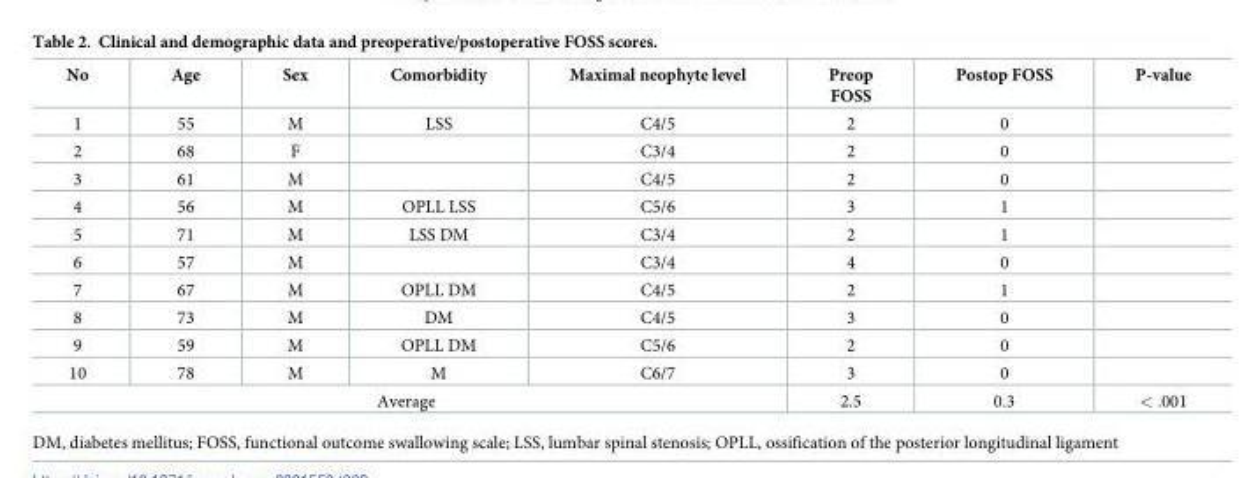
<table><thead><tr><td>No</td><td>Age</td><td>Sex</td><td>Comorbidity</td><td>Maximal neophyte level</td><td>Preop FOSS</td><td>Postop FOSS</td><td>P-value</td></tr></thead><tbody><tr><td>1</td><td>55</td><td>M</td><td>LSS</td><td>C4/5</td><td>2</td><td>0</td><td></td></tr><tr><td>2</td><td>68</td><td>F</td><td></td><td>C3/4</td><td>2</td><td>0</td><td></td></tr><tr><td>3</td><td>61</td><td>M</td><td></td><td>C4/5</td><td>2</td><td>0</td><td></td></tr><tr><td>4</td><td>56</td><td>M</td><td>OPLL LSS</td><td>C5/6</td><td>3</td><td>1</td><td></td></tr><tr><td>5</td><td>71</td><td>M</td><td>LSS DM</td><td>C3/4</td><td>2</td><td>1</td><td></td></tr><tr><td>6</td><td>57</td><td>M</td><td></td><td>C3/4</td><td>4</td><td>0</td><td></td></tr><tr><td>7</td><td>67</td><td>M</td><td>OPLL DM</td><td>C4/5</td><td>2</td><td>1</td><td></td></tr><tr><td>8</td><td>73</td><td>M</td><td>DM</td><td>C4/5</td><td>3</td><td>0</td><td></td></tr><tr><td>9</td><td>59</td><td>M</td><td>OPLL DM</td><td>C5/6</td><td>2</td><td>0</td><td></td></tr><tr><td>10</td><td>78</td><td>M</td><td>M</td><td>C6/7</td><td>3</td><td>0</td><td></td></tr><tr><td colspan="5">Average</td><td>2.5</td><td>0.3</td><td>&lt; .001</td></tr></tbody></table>